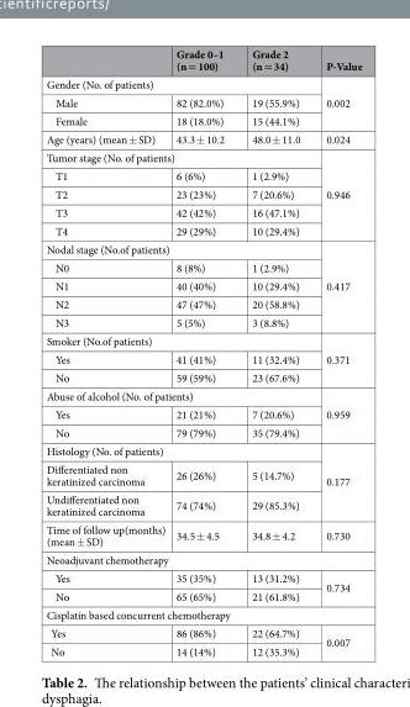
<table><thead><tr><td></td><td>Grade 0–1 (n = 100)</td><td>Grade 2 (n = 34)</td><td>P-Value</td></tr></thead><tbody><tr><td colspan="3">Gender (No. of patients)</td><td rowspan="3">0.002</td></tr><tr><td>Male</td><td>82 (82.0%)</td><td>19 (55.9%)</td></tr><tr><td>Female</td><td>18 (18.0%)</td><td>15 (44.1%)</td></tr><tr><td>Age (years) (mean ± SD)</td><td>43.3 ± 10.2</td><td>48.0 ± 11.0</td><td>0.024</td></tr><tr><td colspan="3">Tumor stage (No. of patients)</td><td rowspan="5">0.946</td></tr><tr><td>T1</td><td>6 (6%)</td><td>1 (2.9%)</td></tr><tr><td>T2</td><td>23 (23%)</td><td>7 (20.6%)</td></tr><tr><td>T3</td><td>42 (42%)</td><td>16 (47.1%)</td></tr><tr><td>T4</td><td>29 (29%)</td><td>10 (29.4%)</td></tr><tr><td colspan="3">Nodal stage (No.of patients)</td><td rowspan="5">0.417</td></tr><tr><td>N0</td><td>8 (8%)</td><td>1 (2.9%)</td></tr><tr><td>N1</td><td>40 (40%)</td><td>10 (29.4%)</td></tr><tr><td>N2</td><td>47 (47%)</td><td>20 (58.8%)</td></tr><tr><td>N3</td><td>5 (5%)</td><td>3 (8.8%)</td></tr><tr><td colspan="3">Smoker (No.of patients)</td><td rowspan="3">0.371</td></tr><tr><td>Yes</td><td>41 (41%)</td><td>11 (32.4%)</td></tr><tr><td>No</td><td>59 (59%)</td><td>23 (67.6%)</td></tr><tr><td colspan="3">Abuse of alcohol (No. of patients)</td><td rowspan="3">0.959</td></tr><tr><td>Yes</td><td>21 (21%)</td><td>7 (20.6%)</td></tr><tr><td>No</td><td>79 (79%)</td><td>35 (79.4%)</td></tr><tr><td colspan="3">Histology (No. of patients)</td><td rowspan="3">0.177</td></tr><tr><td>Differentiated non keratinized carcinoma</td><td>26 (26%)</td><td>5 (14.7%)</td></tr><tr><td>Undifferentiated non keratinized carcinoma</td><td>74 (74%)</td><td>29 (85.3%)</td></tr><tr><td>Time of follow up(months) (mean ± SD)</td><td>34.5 ± 4.5</td><td>34.8 ± 4.2</td><td>0.730</td></tr><tr><td colspan="4">Neoadjuvant chemotherapy</td></tr><tr><td>Yes</td><td>35 (35%)</td><td>13 (31.2%)</td><td rowspan="2">0.734</td></tr><tr><td>No</td><td>65 (65%)</td><td>21 (61.8%)</td></tr><tr><td colspan="4">Cisplatin based concurrent chemotherapy</td></tr><tr><td>Yes</td><td>86 (86%)</td><td>22 (64.7%)</td><td rowspan="2">0.007</td></tr><tr><td>No</td><td>14 (14%)</td><td>12 (35.3%)</td></tr></tbody></table>